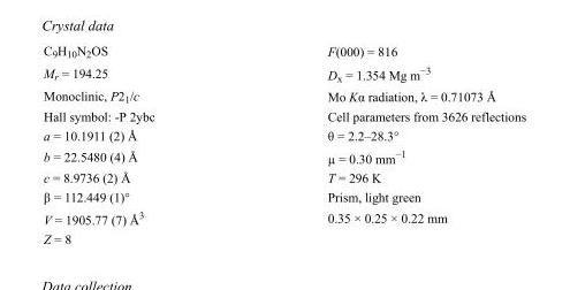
<table><tbody><tr><td>C<sub>9</sub>H<sub>10</sub>N<sub>2</sub>OS</td><td>F(000) = 816</td></tr><tr><td>M<sub>r</sub> = 194.25</td><td>D<sub>x</sub> = 1.354 Mg m<sup>−3</sup></td></tr><tr><td>Monoclinic, P2<sub>1</sub>/c</td><td>Mo Kα radiation, λ = 0.71073 Å</td></tr><tr><td>Hall symbol: -P 2ybc</td><td>Cell parameters from 3626 reflections</td></tr><tr><td>a = 10.1911 (2) Å</td><td>θ = 2.2–28.3°</td></tr><tr><td>b = 22.5480 (4) Å</td><td>µ = 0.30 mm<sup>−1</sup></td></tr><tr><td>c = 8.9736 (2) Å</td><td>T = 296 K</td></tr><tr><td>β = 112.449 (1)°</td><td>Prism, light green</td></tr><tr><td>V = 1905.77 (7) Å<sup>3</sup></td><td>0.35 × 0.25 × 0.22 mm</td></tr><tr><td>Z = 8</td><td></td></tr></tbody></table>